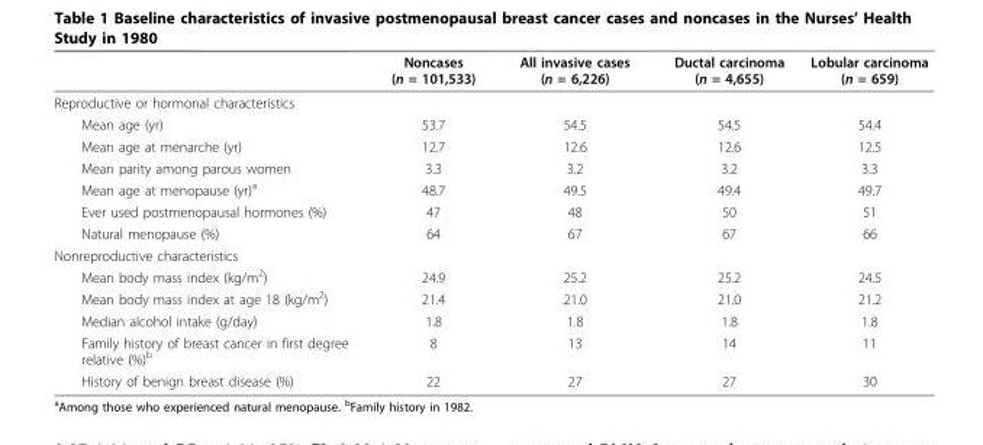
<table><thead><tr><td></td><td>Noncases (n = 101,533)</td><td>All invasive cases (n = 6,226)</td><td>Ductal carcinoma (n = 4,655)</td><td>Lobular carcinoma (n = 659)</td></tr></thead><tbody><tr><td colspan="5">Reproductive or hormonal characteristics</td></tr><tr><td>Mean age (yr)</td><td>53.7</td><td>54.5</td><td>54.5</td><td>54.4</td></tr><tr><td>Mean age at menarche (yr)</td><td>12.7</td><td>12.6</td><td>12.6</td><td>12.5</td></tr><tr><td>Mean parity among parous women</td><td>3.3</td><td>3.2</td><td>3.2</td><td>3.3</td></tr><tr><td>Mean age at menopause (yr)<sup>a</sup></td><td>48.7</td><td>49.5</td><td>49.4</td><td>49.7</td></tr><tr><td>Ever used postmenopausal hormones (%)</td><td>47</td><td>48</td><td>50</td><td>51</td></tr><tr><td>Natural menopause (%)</td><td>64</td><td>67</td><td>67</td><td>66</td></tr><tr><td colspan="5">Nonreproductive characteristics</td></tr><tr><td>Mean body mass index (kg/m<sup>2</sup>)</td><td>24.9</td><td>25.2</td><td>25.2</td><td>24.5</td></tr><tr><td>Mean body mass index at age 18 (kg/m<sup>2</sup>)</td><td>21.4</td><td>21.0</td><td>21.0</td><td>21.2</td></tr><tr><td>Median alcohol intake (g/day)</td><td>1.8</td><td>1.8</td><td>1.8</td><td>1.8</td></tr><tr><td>Family history of breast cancer in first degree relative (%)<sup>b</sup></td><td>8</td><td>13</td><td>14</td><td>11</td></tr><tr><td>History of benign breast disease (%)</td><td>22</td><td>27</td><td>27</td><td>30</td></tr></tbody></table>